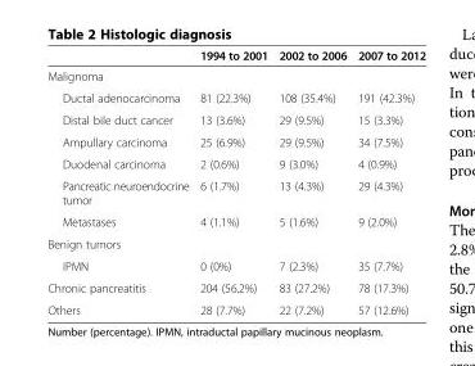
<table><thead><tr><td></td><td>1994 to 2001</td><td>2002 to 2006</td><td>2007 to 2012</td></tr></thead><tbody><tr><td colspan="4">Malignoma</td></tr><tr><td>Ductal adenocarcinoma</td><td>81 (22.3%)</td><td>108 (35.4%)</td><td>191 (42.3%)</td></tr><tr><td>Distal bile duct cancer</td><td>13 (3.6%)</td><td>29 (9.5%)</td><td>15 (3.3%)</td></tr><tr><td>Ampullary carcinoma</td><td>25 (6.9%)</td><td>29 (9.5%)</td><td>34 (7.5%)</td></tr><tr><td>Duodenal carcinoma</td><td>2 (0.6%)</td><td>9 (3.0%)</td><td>4 (0.9%)</td></tr><tr><td>Pancreatic neuroendocrine tumor</td><td>6 (1.7%)</td><td>13 (4.3%)</td><td>29 (4.3%)</td></tr><tr><td>Metastases</td><td>4 (1.1%)</td><td>5 (1.6%)</td><td>9 (2.0%)</td></tr><tr><td colspan="4">Benign tumors</td></tr><tr><td>IPMN</td><td>0 (0%)</td><td>7 (2.3%)</td><td>35 (7.7%)</td></tr><tr><td>Chronic pancreatitis</td><td>204 (56.2%)</td><td>83 (27.2%)</td><td>78 (17.3%)</td></tr><tr><td>Others</td><td>28 (7.7%)</td><td>22 (7.2%)</td><td>57 (12.6%)</td></tr></tbody></table>